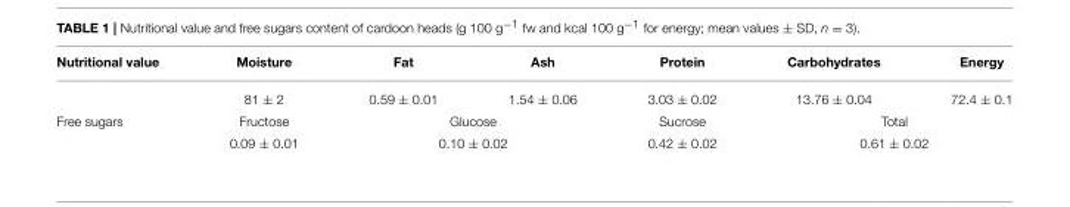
<table><thead><tr><td>Nutritional value</td><td>Moisture</td><td>Fat</td><td>Ash</td><td>Protein</td><td>Carbohydrates</td><td>Energy</td></tr></thead><tbody><tr><td></td><td>81 ± 2</td><td>0.59 ± 0.01</td><td>1.54 ± 0.06</td><td>3.03 ± 0.02</td><td>13.76 ± 0.04</td><td>72.4 ± 0.1</td></tr><tr><td rowspan="2">Free sugars</td><td>Fructose</td><td colspan="2">Glucose</td><td>Sucrose</td><td colspan="2">Total</td></tr><tr><td>0.09 ± 0.01</td><td colspan="2">0.10 ± 0.02</td><td>0.42 ± 0.02</td><td colspan="2">0.61 ± 0.02</td></tr></tbody></table>